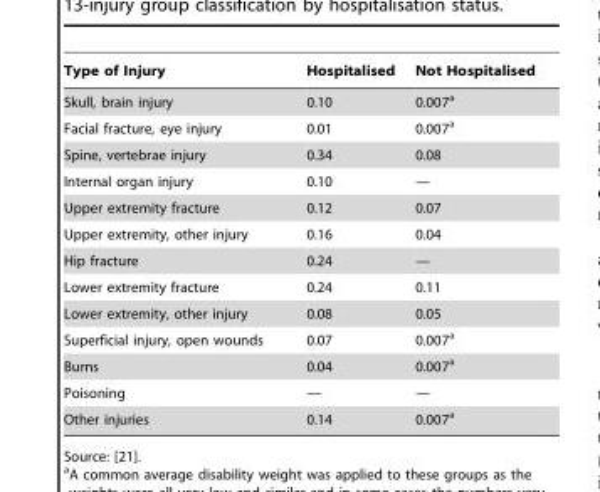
<table><thead><tr><td>Type of Injury</td><td>Hospitalised</td><td>Not Hospitalised</td></tr></thead><tbody><tr><td>Skull, brain injury</td><td>0.10</td><td>0.007<sup>a</sup></td></tr><tr><td>Facial fracture, eye injury</td><td>0.01</td><td>0.007<sup>a</sup></td></tr><tr><td>Spine, vertebrae injury</td><td>0.34</td><td>0.08</td></tr><tr><td>Internal organ injury</td><td>0.10</td><td>—</td></tr><tr><td>Upper extremity fracture</td><td>0.12</td><td>0.07</td></tr><tr><td>Upper extremity, other injury</td><td>0.16</td><td>0.04</td></tr><tr><td>Hip fracture</td><td>0.24</td><td>—</td></tr><tr><td>Lower extremity fracture</td><td>0.24</td><td>0.11</td></tr><tr><td>Lower extremity, other injury</td><td>0.08</td><td>0.05</td></tr><tr><td>Superficial injury, open wounds</td><td>0.07</td><td>0.007<sup>a</sup></td></tr><tr><td>Burns</td><td>0.04</td><td>0.007<sup>a</sup></td></tr><tr><td>Poisoning</td><td>—</td><td>—</td></tr><tr><td>Other injuries</td><td>0.14</td><td>0.007<sup>a</sup></td></tr></tbody></table>